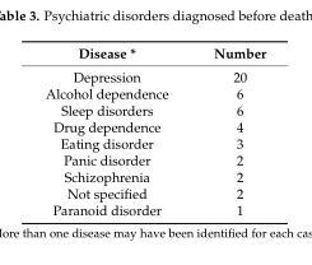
<table><thead><tr><td>Disease *</td><td>Number</td></tr></thead><tbody><tr><td>Depression</td><td>20</td></tr><tr><td>Alcohol dependence</td><td>6</td></tr><tr><td>Sleep disorders</td><td>6</td></tr><tr><td>Drug dependence</td><td>4</td></tr><tr><td>Eating disorder</td><td>3</td></tr><tr><td>Panic disorder</td><td>2</td></tr><tr><td>Schizophrenia</td><td>2</td></tr><tr><td>Not specified</td><td>2</td></tr><tr><td>Paranoid disorder</td><td>1</td></tr></tbody></table>